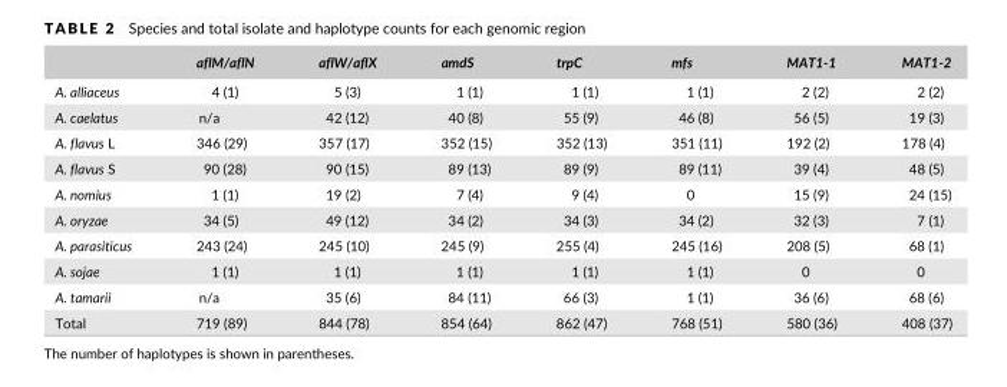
<table><thead><tr><td></td><td>aflM/aflN</td><td>aflW/aflX</td><td>amdS</td><td>trpC</td><td>mfs</td><td>MAT1-1</td><td>MAT1-2</td></tr></thead><tbody><tr><td>A. alliaceus</td><td>4 (1)</td><td>5 (3)</td><td>1 (1)</td><td>1 (1)</td><td>1 (1)</td><td>2 (2)</td><td>2 (2)</td></tr><tr><td>A. caelatus</td><td>n/a</td><td>42 (12)</td><td>40 (8)</td><td>55 (9)</td><td>46 (8)</td><td>56 (5)</td><td>19 (3)</td></tr><tr><td>A. flavus L</td><td>346 (29)</td><td>357 (17)</td><td>352 (15)</td><td>352 (13)</td><td>351 (11)</td><td>192 (2)</td><td>178 (4)</td></tr><tr><td>A. flavus S</td><td>90 (28)</td><td>90 (15)</td><td>89 (13)</td><td>89 (9)</td><td>89 (11)</td><td>39 (4)</td><td>48 (5)</td></tr><tr><td>A. nomius</td><td>1 (1)</td><td>19 (2)</td><td>7 (4)</td><td>9 (4)</td><td>0</td><td>15 (9)</td><td>24 (15)</td></tr><tr><td>A. oryzae</td><td>34 (5)</td><td>49 (12)</td><td>34 (2)</td><td>34 (3)</td><td>34 (2)</td><td>32 (3)</td><td>7 (1)</td></tr><tr><td>A. parasiticus</td><td>243 (24)</td><td>245 (10)</td><td>245 (9)</td><td>255 (4)</td><td>245 (16)</td><td>208 (5)</td><td>68 (1)</td></tr><tr><td>A. sojae</td><td>1 (1)</td><td>1 (1)</td><td>1 (1)</td><td>1 (1)</td><td>1 (1)</td><td>0</td><td>0</td></tr><tr><td>A. tamarii</td><td>n/a</td><td>35 (6)</td><td>84 (11)</td><td>66 (3)</td><td>1 (1)</td><td>36 (6)</td><td>68 (6)</td></tr><tr><td>Total</td><td>719 (89)</td><td>844 (78)</td><td>854 (64)</td><td>862 (47)</td><td>768 (51)</td><td>580 (36)</td><td>408 (37)</td></tr></tbody></table>